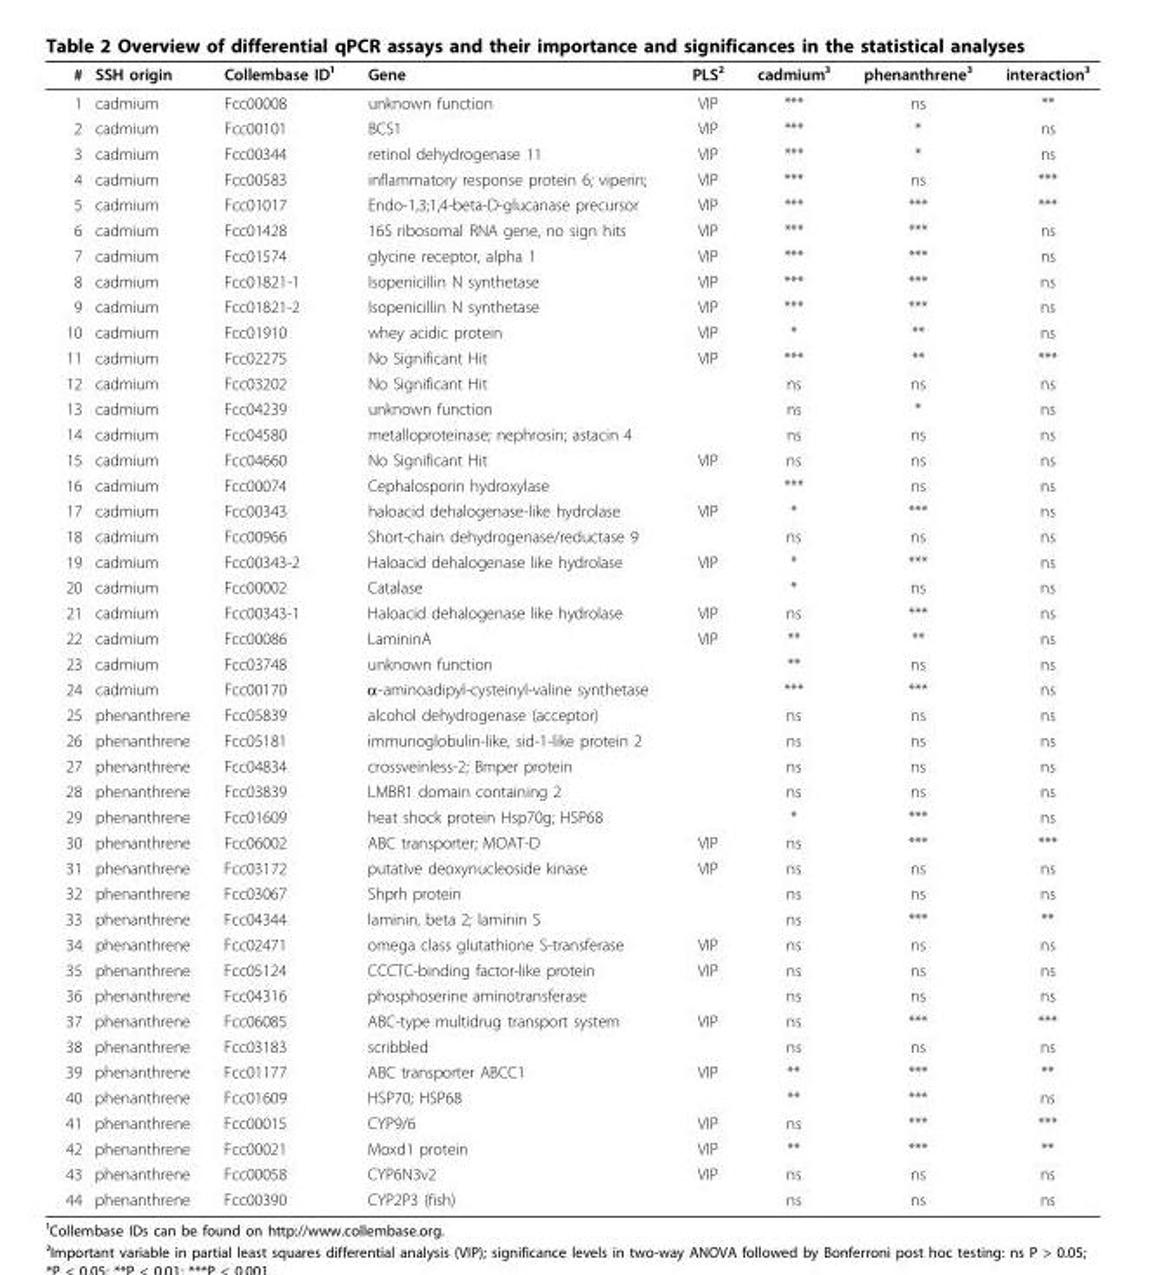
<table><tbody><tr><td>#</td><td>SSH origin</td><td>Collembase ID¹</td><td>Gene</td><td>PLS²</td><td>cadmium³</td><td>phenanthrene³</td><td>interaction³</td></tr><tr><td>1</td><td>cadmium</td><td>Fcc00008</td><td>unknown function</td><td>VIP</td><td>***</td><td>ns</td><td>**</td></tr><tr><td>2</td><td>cadmium</td><td>Fcc00101</td><td>BCS1</td><td>VIP</td><td>***</td><td>*</td><td>ns</td></tr><tr><td>3</td><td>cadmium</td><td>Fcc00344</td><td>retinol dehydrogenase 11</td><td>VIP</td><td>***</td><td>*</td><td>ns</td></tr><tr><td>4</td><td>cadmium</td><td>Fcc00583</td><td>inflammatory response protein 6; viperin;</td><td>VIP</td><td>***</td><td>ns</td><td>***</td></tr><tr><td>5</td><td>cadmium</td><td>Fcc01017</td><td>Endo-1,3;1,4-beta-D-glucanase precursor</td><td>VIP</td><td>***</td><td>***</td><td>***</td></tr><tr><td>6</td><td>cadmium</td><td>Fcc01428</td><td>16S ribosomal RNA gene, no sign hits</td><td>VIP</td><td>***</td><td>***</td><td>ns</td></tr><tr><td>7</td><td>cadmium</td><td>Fcc01574</td><td>glycine receptor, alpha 1</td><td>VIP</td><td>***</td><td>***</td><td>ns</td></tr><tr><td>8</td><td>cadmium</td><td>Fcc01821-1</td><td>Isopenicillin N synthetase</td><td>VIP</td><td>***</td><td>***</td><td>ns</td></tr><tr><td>9</td><td>cadmium</td><td>Fcc01821-2</td><td>Isopenicillin N synthetase</td><td>VIP</td><td>***</td><td>***</td><td>ns</td></tr><tr><td>10</td><td>cadmium</td><td>Fcc01910</td><td>whey acidic protein</td><td>VIP</td><td>*</td><td>**</td><td>ns</td></tr><tr><td>11</td><td>cadmium</td><td>Fcc02275</td><td>No Significant Hit</td><td>VIP</td><td>***</td><td>**</td><td>***</td></tr><tr><td>12</td><td>cadmium</td><td>Fcc03202</td><td>No Significant Hit</td><td></td><td>ns</td><td>ns</td><td>ns</td></tr><tr><td>13</td><td>cadmium</td><td>Fcc04239</td><td>unknown function</td><td></td><td>ns</td><td>*</td><td>ns</td></tr><tr><td>14</td><td>cadmium</td><td>Fcc04580</td><td>metalloproteinase; nephrosin; astacin 4</td><td></td><td>ns</td><td>ns</td><td>ns</td></tr><tr><td>15</td><td>cadmium</td><td>Fcc04660</td><td>No Significant Hit</td><td>VIP</td><td>ns</td><td>ns</td><td>ns</td></tr><tr><td>16</td><td>cadmium</td><td>Fcc00074</td><td>Cephalosporin hydroxylase</td><td></td><td>***</td><td>ns</td><td>ns</td></tr><tr><td>17</td><td>cadmium</td><td>Fcc00343</td><td>haloacid dehalogenase-like hydrolase</td><td>VIP</td><td>*</td><td>***</td><td>ns</td></tr><tr><td>18</td><td>cadmium</td><td>Fcc00966</td><td>Short-chain dehydrogenase/reductase 9</td><td></td><td>ns</td><td>ns</td><td>ns</td></tr><tr><td>19</td><td>cadmium</td><td>Fcc00343-2</td><td>Haloacid dehalogenase like hydrolase</td><td>VIP</td><td>*</td><td>***</td><td>ns</td></tr><tr><td>20</td><td>cadmium</td><td>Fcc00002</td><td>Catalase</td><td></td><td>*</td><td>ns</td><td>ns</td></tr><tr><td>21</td><td>cadmium</td><td>Fcc00343-1</td><td>Haloacid dehalogenase like hydrolase</td><td>VIP</td><td>ns</td><td>***</td><td>ns</td></tr><tr><td>22</td><td>cadmium</td><td>Fcc00086</td><td>LamininA</td><td>VIP</td><td>**</td><td>**</td><td>ns</td></tr><tr><td>23</td><td>cadmium</td><td>Fcc03748</td><td>unknown function</td><td></td><td>**</td><td>ns</td><td>ns</td></tr><tr><td>24</td><td>cadmium</td><td>Fcc00170</td><td>α-aminoadipyl-cysteinyl-valine synthetase</td><td></td><td>***</td><td>***</td><td>ns</td></tr><tr><td>25</td><td>phenanthrene</td><td>Fcc05839</td><td>alcohol dehydrogenase (acceptor)</td><td></td><td>ns</td><td>ns</td><td>ns</td></tr><tr><td>26</td><td>phenanthrene</td><td>Fcc05181</td><td>immunoglobulin-like, sid-1-like protein 2</td><td></td><td>ns</td><td>ns</td><td>ns</td></tr><tr><td>27</td><td>phenanthrene</td><td>Fcc04834</td><td>crossveinless-2; Bmper protein</td><td></td><td>ns</td><td>ns</td><td>ns</td></tr><tr><td>28</td><td>phenanthrene</td><td>Fcc03839</td><td>LMBR1 domain containing 2</td><td></td><td>ns</td><td>ns</td><td>ns</td></tr><tr><td>29</td><td>phenanthrene</td><td>Fcc01609</td><td>heat shock protein Hsp70g; HSP68</td><td></td><td>*</td><td>***</td><td>ns</td></tr><tr><td>30</td><td>phenanthrene</td><td>Fcc06002</td><td>ABC transporter; MOAT-D</td><td>VIP</td><td>ns</td><td>***</td><td>***</td></tr><tr><td>31</td><td>phenanthrene</td><td>Fcc03172</td><td>putative deoxynucleoside kinase</td><td>VIP</td><td>ns</td><td>ns</td><td>ns</td></tr><tr><td>32</td><td>phenanthrene</td><td>Fcc03067</td><td>Shprh protein</td><td></td><td>ns</td><td>ns</td><td>ns</td></tr><tr><td>33</td><td>phenanthrene</td><td>Fcc04344</td><td>laminin, beta 2; laminin S</td><td></td><td>ns</td><td>***</td><td>**</td></tr><tr><td>34</td><td>phenanthrene</td><td>Fcc02471</td><td>omega class glutathione S-transferase</td><td>VIP</td><td>ns</td><td>ns</td><td>ns</td></tr><tr><td>35</td><td>phenanthrene</td><td>Fcc05124</td><td>CCCTC-binding factor-like protein</td><td>VIP</td><td>ns</td><td>ns</td><td>ns</td></tr><tr><td>36</td><td>phenanthrene</td><td>Fcc04316</td><td>phosphoserine aminotransferase</td><td></td><td>ns</td><td>ns</td><td>ns</td></tr><tr><td>37</td><td>phenanthrene</td><td>Fcc06085</td><td>ABC-type multidrug transport system</td><td>VIP</td><td>ns</td><td>***</td><td>***</td></tr><tr><td>38</td><td>phenanthrene</td><td>Fcc03183</td><td>scribbled</td><td></td><td>ns</td><td>ns</td><td>ns</td></tr><tr><td>39</td><td>phenanthrene</td><td>Fcc01177</td><td>ABC transporter ABCC1</td><td>VIP</td><td>**</td><td>***</td><td>**</td></tr><tr><td>40</td><td>phenanthrene</td><td>Fcc01609</td><td>HSP70; HSP68</td><td></td><td>**</td><td>***</td><td>ns</td></tr><tr><td>41</td><td>phenanthrene</td><td>Fcc00015</td><td>CYP9/6</td><td>VIP</td><td>ns</td><td>***</td><td>***</td></tr><tr><td>42</td><td>phenanthrene</td><td>Fcc00021</td><td>Moxd1 protein</td><td>VIP</td><td>**</td><td>***</td><td>**</td></tr><tr><td>43</td><td>phenanthrene</td><td>Fcc00058</td><td>CYP6N3v2</td><td>VIP</td><td>ns</td><td>ns</td><td>ns</td></tr><tr><td>44</td><td>phenanthrene</td><td>Fcc00390</td><td>CYP2P3 (fish)</td><td></td><td>ns</td><td>ns</td><td>ns</td></tr></tbody></table>